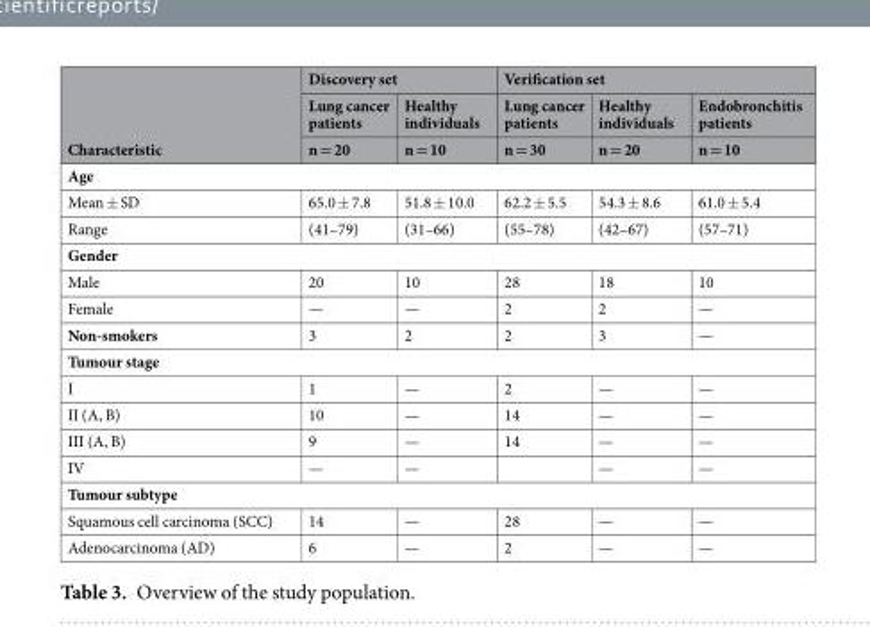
<table><thead><tr><td rowspan="3">Characteristic</td><td colspan="2">Discovery set</td><td colspan="3">Verification set</td></tr><tr><td rowspan="2">Lung cancer patients n = 20</td><td rowspan="2">Healthy individuals n = 10</td><td rowspan="2">Lung cancer patients n = 30</td><td rowspan="2">Healthy individuals n = 20</td><td rowspan="2">Endobronchitis patients n = 10</td></tr><tr></tr></thead><tbody><tr><td colspan="6">Age</td></tr><tr><td>Mean ± SD</td><td>65.0 ± 7.8</td><td>51.8 ± 10.0</td><td>62.2 ± 5.5</td><td>54.3 ± 8.6</td><td>61.0 ± 5.4</td></tr><tr><td>Range</td><td>(41–79)</td><td>(31–66)</td><td>(55–78)</td><td>(42–67)</td><td>(57–71)</td></tr><tr><td colspan="6">Gender</td></tr><tr><td>Male</td><td>20</td><td>10</td><td>28</td><td>18</td><td>10</td></tr><tr><td>Female</td><td>—</td><td>—</td><td>2</td><td>2</td><td>—</td></tr><tr><td>Non-smokers</td><td>3</td><td>2</td><td>2</td><td>3</td><td>—</td></tr><tr><td colspan="6">Tumour stage</td></tr><tr><td>I</td><td>1</td><td>—</td><td>2</td><td>—</td><td>—</td></tr><tr><td>II (A, B)</td><td>10</td><td>—</td><td>14</td><td>—</td><td>—</td></tr><tr><td>III (A, B)</td><td>9</td><td>—</td><td>14</td><td>—</td><td>—</td></tr><tr><td>IV</td><td>—</td><td>—</td><td></td><td>—</td><td>—</td></tr><tr><td colspan="6">Tumour subtype</td></tr><tr><td>Squamous cell carcinoma (SCC)</td><td>14</td><td>—</td><td>28</td><td>—</td><td>—</td></tr><tr><td>Adenocarcinoma (AD)</td><td>6</td><td>—</td><td>2</td><td>—</td><td>—</td></tr></tbody></table>